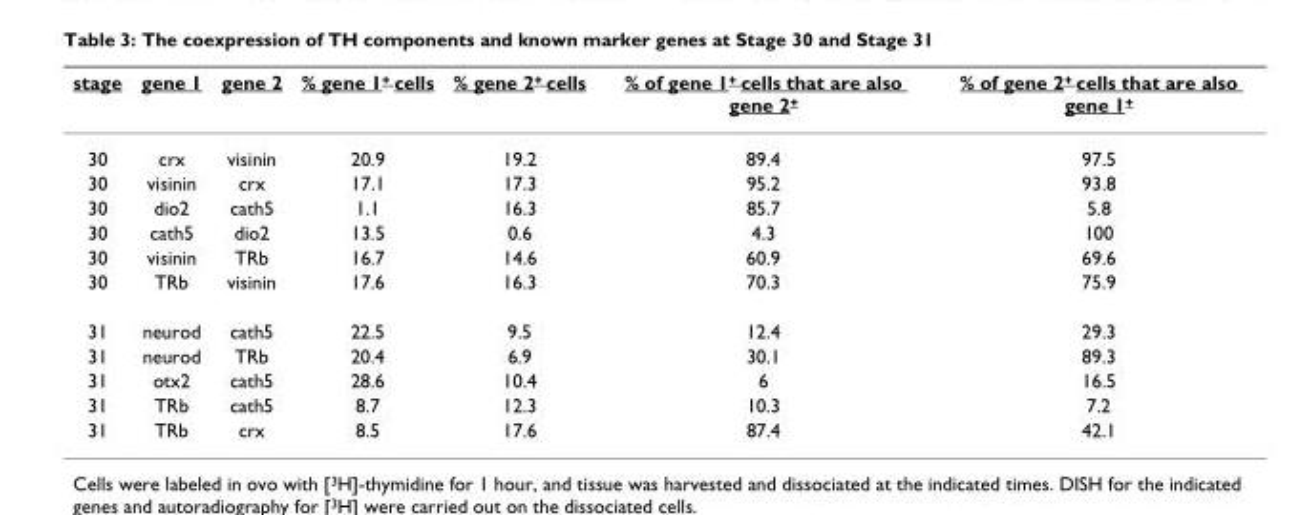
<table><thead><tr><td>stage</td><td>gene 1</td><td>gene 2</td><td>% gene 1<sup>+</sup> cells</td><td>% gene 2<sup>+</sup> cells</td><td>% of gene 1<sup>+</sup> cells that are also gene 2<sup>+</sup></td><td>% of gene 2<sup>+</sup> cells that are also gene 1<sup>+</sup></td></tr></thead><tbody><tr><td>30</td><td>crx</td><td>visinin</td><td>20.9</td><td>19.2</td><td>89.4</td><td>97.5</td></tr><tr><td>30</td><td>visinin</td><td>crx</td><td>17.1</td><td>17.3</td><td>95.2</td><td>93.8</td></tr><tr><td>30</td><td>dio2</td><td>cath5</td><td>1.1</td><td>16.3</td><td>85.7</td><td>5.8</td></tr><tr><td>30</td><td>cath5</td><td>dio2</td><td>13.5</td><td>0.6</td><td>4.3</td><td>100</td></tr><tr><td>30</td><td>visinin</td><td>TRb</td><td>16.7</td><td>14.6</td><td>60.9</td><td>69.6</td></tr><tr><td>30</td><td>TRb</td><td>visinin</td><td>17.6</td><td>16.3</td><td>70.3</td><td>75.9</td></tr><tr><td>31</td><td>neurod</td><td>cath5</td><td>22.5</td><td>9.5</td><td>12.4</td><td>29.3</td></tr><tr><td>31</td><td>neurod</td><td>TRb</td><td>20.4</td><td>6.9</td><td>30.1</td><td>89.3</td></tr><tr><td>31</td><td>otx2</td><td>cath5</td><td>28.6</td><td>10.4</td><td>6</td><td>16.5</td></tr><tr><td>31</td><td>TRb</td><td>cath5</td><td>8.7</td><td>12.3</td><td>10.3</td><td>7.2</td></tr><tr><td>31</td><td>TRb</td><td>crx</td><td>8.5</td><td>17.6</td><td>87.4</td><td>42.1</td></tr></tbody></table>